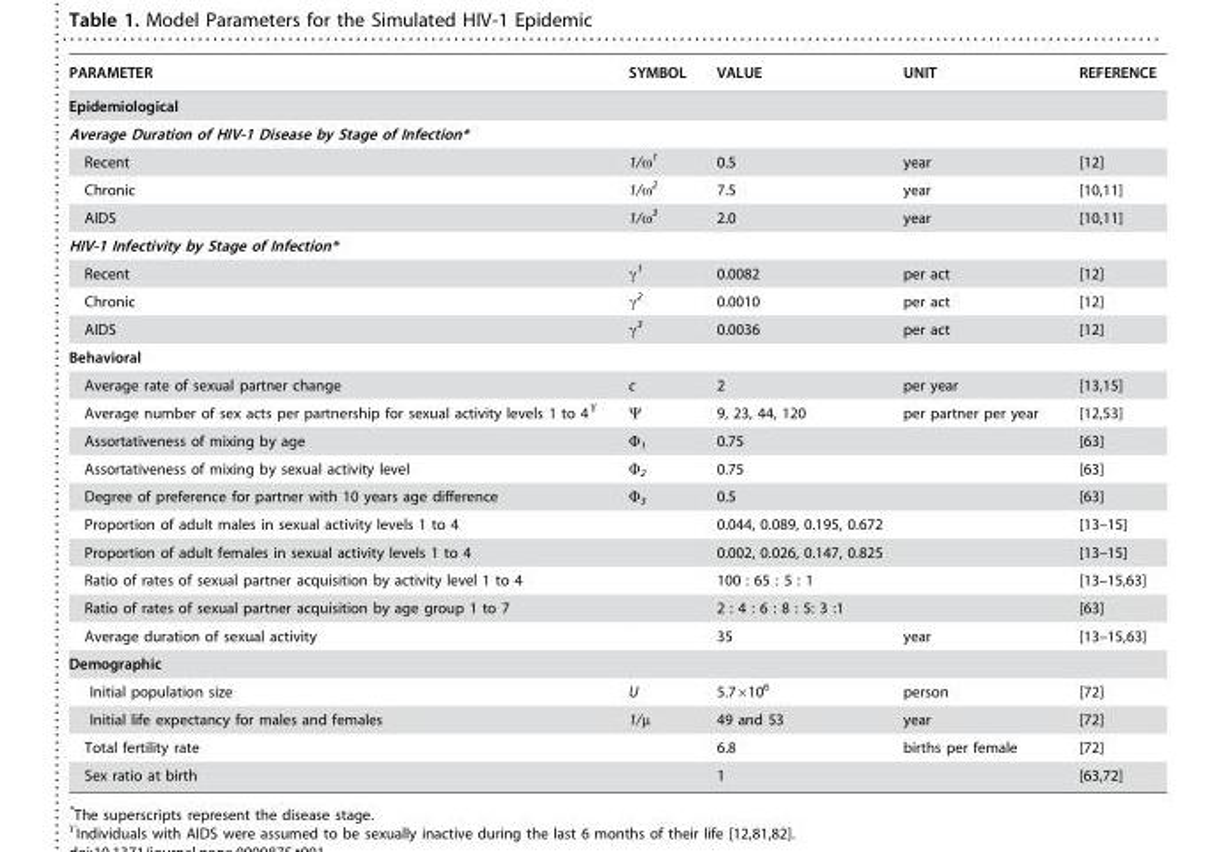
<table><thead><tr><td>PARAMETER</td><td>SYMBOL</td><td>VALUE</td><td>UNIT</td><td>REFERENCE</td></tr></thead><tbody><tr><td colspan="5">Epidemiological</td></tr><tr><td colspan="5">Average Duration of HIV-1 Disease by Stage of Infection*</td></tr><tr><td>Recent</td><td>1/ω<sup>1</sup></td><td>0.5</td><td>year</td><td>[12]</td></tr><tr><td>Chronic</td><td>1/ω<sup>2</sup></td><td>7.5</td><td>year</td><td>[10,11]</td></tr><tr><td>AIDS</td><td>1/ω<sup>3</sup></td><td>2.0</td><td>year</td><td>[10,11]</td></tr><tr><td colspan="5">HIV-1 Infectivity by Stage of Infection*</td></tr><tr><td>Recent</td><td>γ<sup>1</sup></td><td>0.0082</td><td>per act</td><td>[12]</td></tr><tr><td>Chronic</td><td>γ<sup>2</sup></td><td>0.0010</td><td>per act</td><td>[12]</td></tr><tr><td>AIDS</td><td>γ<sup>3</sup></td><td>0.0036</td><td>per act</td><td>[12]</td></tr><tr><td colspan="5">Behavioral</td></tr><tr><td>Average rate of sexual partner change</td><td>c</td><td>2</td><td>per year</td><td>[13,15]</td></tr><tr><td>Average number of sex acts per partnership for sexual activity levels 1 to 4Υ</td><td>Ψ</td><td>9, 23, 44, 120</td><td>per partner per year</td><td>[12,53]</td></tr><tr><td>Assortativeness of mixing by age</td><td>Φ<sub>1</sub></td><td>0.75</td><td></td><td>[63]</td></tr><tr><td>Assortativeness of mixing by sexual activity level</td><td>Φ<sub>2</sub></td><td>0.75</td><td></td><td>[63]</td></tr><tr><td>Degree of preference for partner with 10 years age difference</td><td>Φ<sub>3</sub></td><td>0.5</td><td></td><td>[63]</td></tr><tr><td>Proportion of adult males in sexual activity levels 1 to 4</td><td></td><td>0.044, 0.089, 0.195, 0.672</td><td></td><td>[13–15]</td></tr><tr><td>Proportion of adult females in sexual activity levels 1 to 4</td><td></td><td>0.002, 0.026, 0.147, 0.825</td><td></td><td>[13–15]</td></tr><tr><td>Ratio of rates of sexual partner acquisition by activity level 1 to 4</td><td></td><td>100 : 65 : 5 : 1</td><td></td><td>[13–15,63]</td></tr><tr><td>Ratio of rates of sexual partner acquisition by age group 1 to 7</td><td></td><td>2 : 4 : 6 : 8 : 5: 3 :1</td><td></td><td>[63]</td></tr><tr><td>Average duration of sexual activity</td><td></td><td>35</td><td>year</td><td>[13–15,63]</td></tr><tr><td colspan="5">Demographic</td></tr><tr><td>Initial population size</td><td>U</td><td>5.7×10<sup>6</sup></td><td>person</td><td>[72]</td></tr><tr><td>Initial life expectancy for males and females</td><td>1/μ</td><td>49 and 53</td><td>year</td><td>[72]</td></tr><tr><td>Total fertility rate</td><td></td><td>6.8</td><td>births per female</td><td>[72]</td></tr><tr><td>Sex ratio at birth</td><td></td><td>1</td><td></td><td>[63,72]</td></tr></tbody></table>